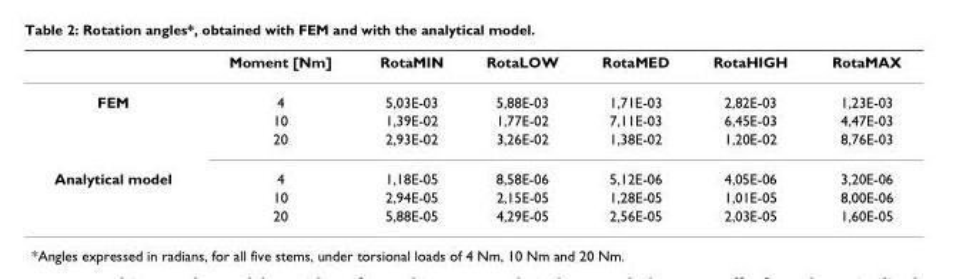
<table><thead><tr><td></td><td>Moment [Nm]</td><td>RotaMIN</td><td>RotaLOW</td><td>RotaMED</td><td>RotaHIGH</td><td>RotaMAX</td></tr></thead><tbody><tr><td rowspan="3">FEM</td><td>4</td><td>5,03E-03</td><td>5,88E-03</td><td>1,71E-03</td><td>2,82E-03</td><td>1,23E-03</td></tr><tr><td>10</td><td>1,39E-02</td><td>1,77E-02</td><td>7,11E-03</td><td>6,45E-03</td><td>4,47E-03</td></tr><tr><td>20</td><td>2,93E-02</td><td>3,26E-02</td><td>1,38E-02</td><td>1,20E-02</td><td>8,76E-03</td></tr><tr><td rowspan="3">Analytical model</td><td>4</td><td>1,18E-05</td><td>8,58E-06</td><td>5,12E-06</td><td>4,05E-06</td><td>3,20E-06</td></tr><tr><td>10</td><td>2,94E-05</td><td>2,15E-05</td><td>1,28E-05</td><td>1,01E-05</td><td>8,00E-06</td></tr><tr><td>20</td><td>5,88E-05</td><td>4,29E-05</td><td>2,56E-05</td><td>2,03E-05</td><td>1,60E-05</td></tr></tbody></table>